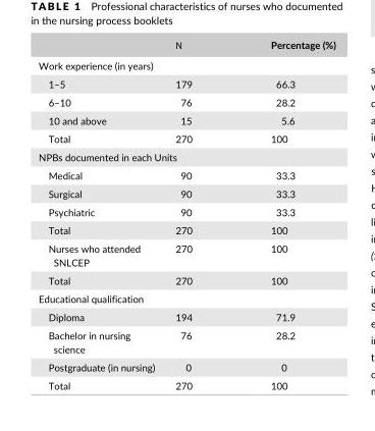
<table><thead><tr><td></td><td>N</td><td>Percentage (%)</td></tr></thead><tbody><tr><td colspan="3">Work experience (in years)</td></tr><tr><td>1–5</td><td>179</td><td>66.3</td></tr><tr><td>6–10</td><td>76</td><td>28.2</td></tr><tr><td>10 and above</td><td>15</td><td>5.6</td></tr><tr><td>Total</td><td>270</td><td>100</td></tr><tr><td colspan="3">NPBs documented in each Units</td></tr><tr><td>Medical</td><td>90</td><td>33.3</td></tr><tr><td>Surgical</td><td>90</td><td>33.3</td></tr><tr><td>Psychiatric</td><td>90</td><td>33.3</td></tr><tr><td>Total</td><td>270</td><td>100</td></tr><tr><td>Nurses who attended SNLCEP</td><td>270</td><td>100</td></tr><tr><td>Total</td><td>270</td><td>100</td></tr><tr><td colspan="3">Educational qualification</td></tr><tr><td>Diploma</td><td>194</td><td>71.9</td></tr><tr><td>Bachelor in nursing science</td><td>76</td><td>28.2</td></tr><tr><td>Postgraduate (in nursing)</td><td>0</td><td>0</td></tr><tr><td>Total</td><td>270</td><td>100</td></tr></tbody></table>